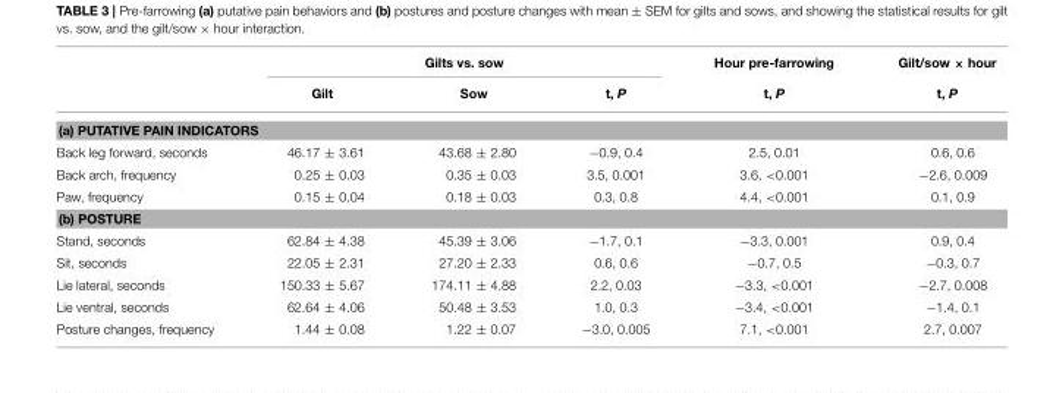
<table><thead><tr><td rowspan="2"></td><td colspan="3">Gilts vs. sow</td><td rowspan="2">Hour pre-farrowing t, P</td><td rowspan="2">Gilt/sow × hour t, P</td></tr><tr><td>Gilt</td><td>Sow</td><td>t, P</td></tr></thead><tbody><tr><td colspan="6">(a) PUTATIVE PAIN INDICATORS</td></tr><tr><td>Back leg forward, seconds</td><td>46.17 ± 3.61</td><td>43.68 ± 2.80</td><td>−0.9, 0.4</td><td>2.5, 0.01</td><td>0.6, 0.6</td></tr><tr><td>Back arch, frequency</td><td>0.25 ± 0.03</td><td>0.35 ± 0.03</td><td>3.5, 0.001</td><td>3.6, &lt;0.001</td><td>−2.6, 0.009</td></tr><tr><td>Paw, frequency</td><td>0.15 ± 0.04</td><td>0.18 ± 0.03</td><td>0.3, 0.8</td><td>4.4, &lt;0.001</td><td>0.1, 0.9</td></tr><tr><td colspan="6">(b) POSTURE</td></tr><tr><td>Stand, seconds</td><td>62.84 ± 4.38</td><td>45.39 ± 3.06</td><td>−1.7, 0.1</td><td>−3.3, 0.001</td><td>0.9, 0.4</td></tr><tr><td>Sit, seconds</td><td>22.05 ± 2.31</td><td>27.20 ± 2.33</td><td>0.6, 0.6</td><td>−0.7, 0.5</td><td>−0.3, 0.7</td></tr><tr><td>Lie lateral, seconds</td><td>150.33 ± 5.67</td><td>174.11 ± 4.88</td><td>2.2, 0.03</td><td>−3.3, &lt;0.001</td><td>−2.7, 0.008</td></tr><tr><td>Lie ventral, seconds</td><td>62.64 ± 4.06</td><td>50.48 ± 3.53</td><td>1.0, 0.3</td><td>−3.4, &lt;0.001</td><td>−1.4, 0.1</td></tr><tr><td>Posture changes, frequency</td><td>1.44 ± 0.08</td><td>1.22 ± 0.07</td><td>−3.0, 0.005</td><td>7.1, &lt;0.001</td><td>2.7, 0.007</td></tr></tbody></table>